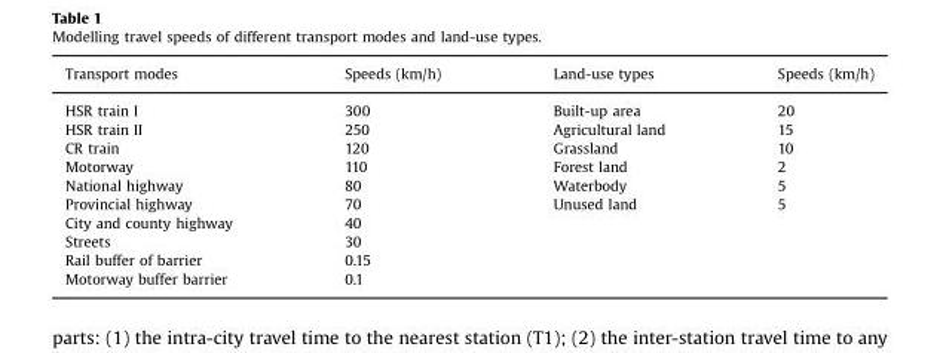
<table><thead><tr><td>Transport modes</td><td>Speeds (km/h)</td><td>Land-use types</td><td>Speeds (km/h)</td></tr></thead><tbody><tr><td>HSR train I</td><td>300</td><td>Built-up area</td><td>20</td></tr><tr><td>HSR train II</td><td>250</td><td>Agricultural land</td><td>15</td></tr><tr><td>CR train</td><td>120</td><td>Grassland</td><td>10</td></tr><tr><td>Motorway</td><td>110</td><td>Forest land</td><td>2</td></tr><tr><td>National highway</td><td>80</td><td>Waterbody</td><td>5</td></tr><tr><td>Provincial highway</td><td>70</td><td>Unused land</td><td>5</td></tr><tr><td>City and county highway</td><td>40</td><td></td><td></td></tr><tr><td>Streets</td><td>30</td><td></td><td></td></tr><tr><td>Rail buffer of barrier</td><td>0.15</td><td></td><td></td></tr><tr><td>Motorway buffer barrier</td><td>0.1</td><td></td><td></td></tr></tbody></table>